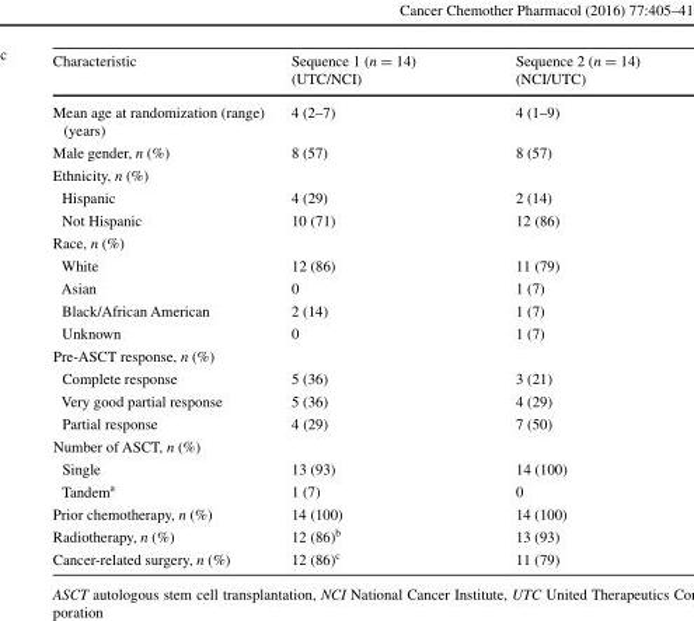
<table><thead><tr><td>Characteristic</td><td>Sequence 1 (n = 14) (UTC/NCI)</td><td>Sequence 2 (n = 14) (NCI/UTC)</td></tr></thead><tbody><tr><td>Mean age at randomization (range) (years)</td><td>4 (2–7)</td><td>4 (1–9)</td></tr><tr><td>Male gender, n (%)</td><td>8 (57)</td><td>8 (57)</td></tr><tr><td colspan="3">Ethnicity, n (%)</td></tr><tr><td>Hispanic</td><td>4 (29)</td><td>2 (14)</td></tr><tr><td>Not Hispanic</td><td>10 (71)</td><td>12 (86)</td></tr><tr><td colspan="3">Race, n (%)</td></tr><tr><td>White</td><td>12 (86)</td><td>11 (79)</td></tr><tr><td>Asian</td><td>0</td><td>1 (7)</td></tr><tr><td>Black/African American</td><td>2 (14)</td><td>1 (7)</td></tr><tr><td>Unknown</td><td>0</td><td>1 (7)</td></tr><tr><td colspan="3">Pre-ASCT response, n (%)</td></tr><tr><td>Complete response</td><td>5 (36)</td><td>3 (21)</td></tr><tr><td>Very good partial response</td><td>5 (36)</td><td>4 (29)</td></tr><tr><td>Partial response</td><td>4 (29)</td><td>7 (50)</td></tr><tr><td colspan="3">Number of ASCT, n (%)</td></tr><tr><td>Single</td><td>13 (93)</td><td>14 (100)</td></tr><tr><td>Tandem<sup>a</sup></td><td>1 (7)</td><td>0</td></tr><tr><td>Prior chemotherapy, n (%)</td><td>14 (100)</td><td>14 (100)</td></tr><tr><td>Radiotherapy, n (%)</td><td>12 (86)<sup>b</sup></td><td>13 (93)</td></tr><tr><td>Cancer-related surgery, n (%)</td><td>12 (86)<sup>c</sup></td><td>11 (79)</td></tr></tbody></table>